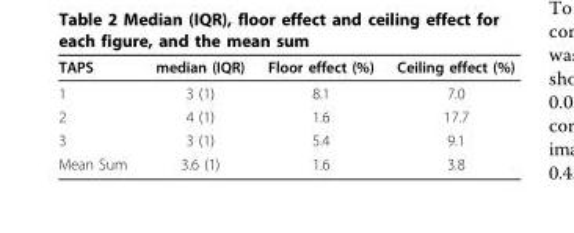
<table><thead><tr><td>TAPS</td><td>median (IQR)</td><td>Floor effect (%)</td><td>Ceiling effect (%)</td></tr></thead><tbody><tr><td>1</td><td>3 (1)</td><td>8.1</td><td>7.0</td></tr><tr><td>2</td><td>4 (1)</td><td>1.6</td><td>17.7</td></tr><tr><td>3</td><td>3 (1)</td><td>5.4</td><td>9.1</td></tr><tr><td>Mean Sum</td><td>3.6 (1)</td><td>1.6</td><td>3.8</td></tr></tbody></table>